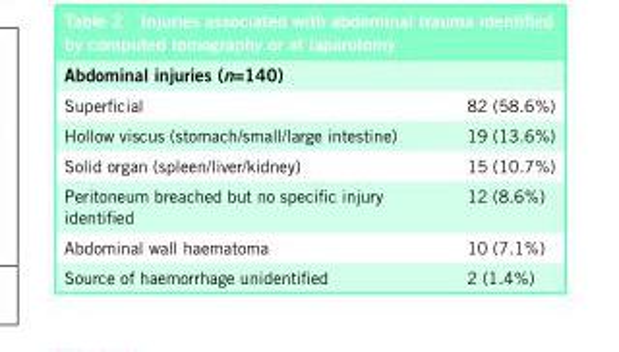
<table><thead><tr><td colspan="2">Abdominal injuries (n=140)</td></tr><tr><td>Superfi cial</td><td>82 (58.6%)</td></tr></thead><tbody><tr><td>Hollow viscus (stomach/small/large intestine)</td><td>19 (13.6%)</td></tr><tr><td>Solid organ (spleen/liver/kidney)</td><td>15 (10.7%)</td></tr><tr><td>Peritoneum breached but no specifi c injury identifi ed</td><td>12 (8.6%)</td></tr><tr><td>Abdominal wall haematoma</td><td>10 (7.1%)</td></tr><tr><td>Source of haemorrhage unidentifi ed</td><td>2 (1.4%)</td></tr></tbody></table>